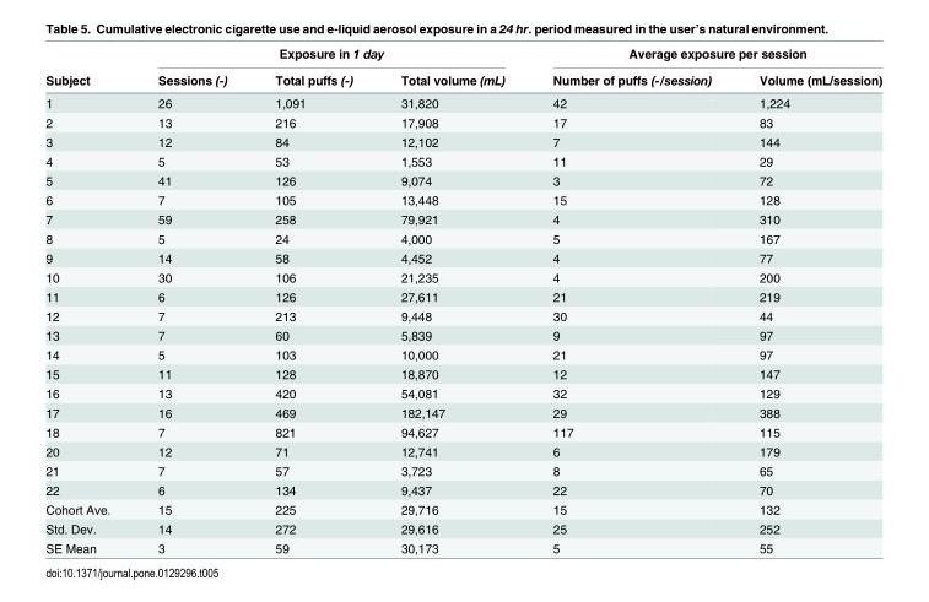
<table><thead><tr><td rowspan="2">Subject</td><td colspan="3">Exposure in 1 day</td><td colspan="2">Average exposure per session</td></tr><tr><td>Sessions (-)</td><td>Total puffs (-)</td><td>Total volume (mL)</td><td>Number of puffs (-/session)</td><td>Volume (mL/session)</td></tr></thead><tbody><tr><td>1</td><td>26</td><td>1,091</td><td>31,820</td><td>42</td><td>1,224</td></tr><tr><td>2</td><td>13</td><td>216</td><td>17,908</td><td>17</td><td>83</td></tr><tr><td>3</td><td>12</td><td>84</td><td>12,102</td><td>7</td><td>144</td></tr><tr><td>4</td><td>5</td><td>53</td><td>1,553</td><td>11</td><td>29</td></tr><tr><td>5</td><td>41</td><td>126</td><td>9,074</td><td>3</td><td>72</td></tr><tr><td>6</td><td>7</td><td>105</td><td>13,448</td><td>15</td><td>128</td></tr><tr><td>7</td><td>59</td><td>258</td><td>79,921</td><td>4</td><td>310</td></tr><tr><td>8</td><td>5</td><td>24</td><td>4,000</td><td>5</td><td>167</td></tr><tr><td>9</td><td>14</td><td>58</td><td>4,452</td><td>4</td><td>77</td></tr><tr><td>10</td><td>30</td><td>106</td><td>21,235</td><td>4</td><td>200</td></tr><tr><td>11</td><td>6</td><td>126</td><td>27,611</td><td>21</td><td>219</td></tr><tr><td>12</td><td>7</td><td>213</td><td>9,448</td><td>30</td><td>44</td></tr><tr><td>13</td><td>7</td><td>60</td><td>5,839</td><td>9</td><td>97</td></tr><tr><td>14</td><td>5</td><td>103</td><td>10,000</td><td>21</td><td>97</td></tr><tr><td>15</td><td>11</td><td>128</td><td>18,870</td><td>12</td><td>147</td></tr><tr><td>16</td><td>13</td><td>420</td><td>54,081</td><td>32</td><td>129</td></tr><tr><td>17</td><td>16</td><td>469</td><td>182,147</td><td>29</td><td>388</td></tr><tr><td>18</td><td>7</td><td>821</td><td>94,627</td><td>117</td><td>115</td></tr><tr><td>20</td><td>12</td><td>71</td><td>12,741</td><td>6</td><td>179</td></tr><tr><td>21</td><td>7</td><td>57</td><td>3,723</td><td>8</td><td>65</td></tr><tr><td>22</td><td>6</td><td>134</td><td>9,437</td><td>22</td><td>70</td></tr><tr><td>Cohort Ave.</td><td>15</td><td>225</td><td>29,716</td><td>15</td><td>132</td></tr><tr><td>Std. Dev.</td><td>14</td><td>272</td><td>29,616</td><td>25</td><td>252</td></tr><tr><td>SE Mean</td><td>3</td><td>59</td><td>30,173</td><td>5</td><td>55</td></tr></tbody></table>